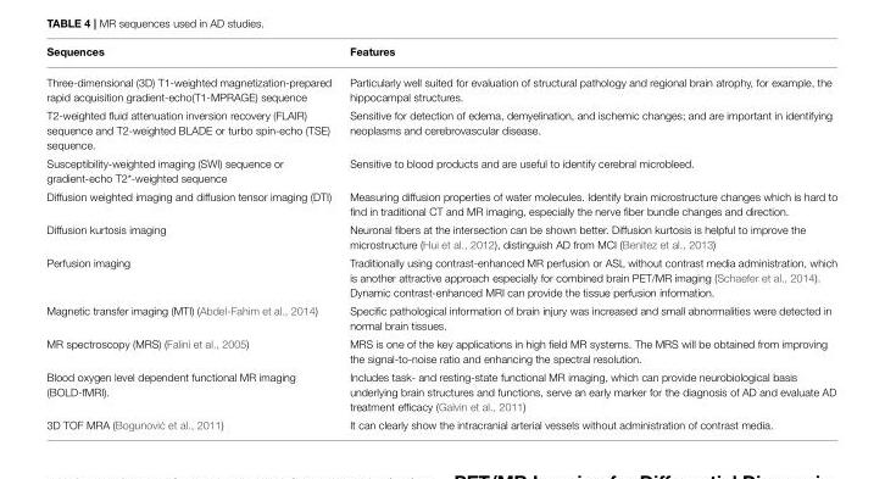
<table><thead><tr><td>Sequences</td><td>Features</td></tr></thead><tbody><tr><td>Three-dimensional (3D) T1-weighted magnetization-prepared rapid acquisition gradient-echo(T1-MPRAGE) sequence</td><td>Particularly well suited for evaluation of structural pathology and regional brain atrophy, for example, the hippocampal structures.</td></tr><tr><td>T2-weighted fluid attenuation inversion recovery (FLAIR) sequence and T2-weighted BLADE or turbo spin-echo (TSE) sequence.</td><td>Sensitive for detection of edema, demyelination, and ischemic changes; and are important in identifying neoplasms and cerebrovascular disease.</td></tr><tr><td>Susceptibility-weighted imaging (SWI) sequence or gradient-echo T2*-weighted sequence</td><td>Sensitive to blood products and are useful to identify cerebral microbleed.</td></tr><tr><td>Diffusion weighted imaging and diffusion tensor imaging (DTI)</td><td>Measuring diffusion properties of water molecules. Identify brain microstructure changes which is hard to find in traditional CT and MR imaging, especially the nerve fiber bundle changes and direction.</td></tr><tr><td>Diffusion kurtosis imaging</td><td>Neuronal fibers at the intersection can be shown better. Diffusion kurtosis is helpful to improve the microstructure (Hui et al., 2012), distinguish AD from MCI (Benitez et al., 2013)</td></tr><tr><td>Perfusion imaging</td><td>Traditionally using contrast-enhanced MR perfusion or ASL without contrast media administration, which is another attractive approach especially for combined brain PET/MR imaging (Schaefer et al., 2014). Dynamic contrast-enhanced MRI can provide the tissue perfusion information.</td></tr><tr><td>Magnetic transfer imaging (MTI) (Abdel-Fahim et al., 2014)</td><td>Specific pathological information of brain injury was increased and small abnormalities were detected in normal brain tissues.</td></tr><tr><td>MR spectroscopy (MRS) (Falini et al., 2005)</td><td>MRS is one of the key applications in high field MR systems. The MRS will be obtained from improving the signal-to-noise ratio and enhancing the spectral resolution.</td></tr><tr><td>Blood oxygen level dependent functional MR imaging (BOLD-fMRI).</td><td>Includes task- and resting-state functional MR imaging, which can provide neurobiological basis underlying brain structures and functions, serve an early marker for the diagnosis of AD and evaluate AD treatment efficacy (Galvin et al., 2011)</td></tr><tr><td>3D TOF MRA (Bogunovi ´c et al., 2011)</td><td>It can clearly show the intracranial arterial vessels without administration of contrast media.</td></tr></tbody></table>